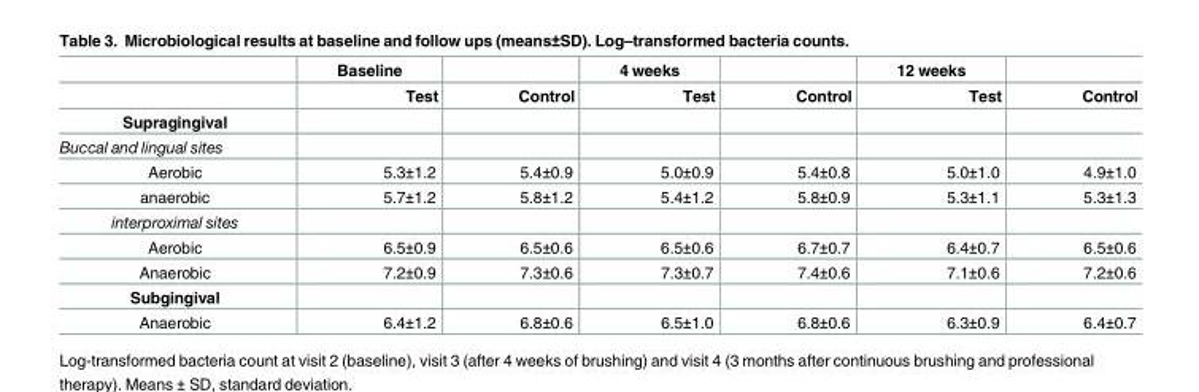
<table><thead><tr><td rowspan="2"></td><td rowspan="2">Baseline Test</td><td rowspan="2">Control</td><td rowspan="2">4 weeks Test</td><td rowspan="2">Control</td><td rowspan="2">12 weeks Test</td><td rowspan="2">Control</td></tr><tr></tr></thead><tbody><tr><td colspan="7">Supragingival</td></tr><tr><td colspan="7">Buccal and lingual sites</td></tr><tr><td>Aerobic</td><td>5.3±1.2</td><td>5.4±0.9</td><td>5.0±0.9</td><td>5.4±0.8</td><td>5.0±1.0</td><td>4.9±1.0</td></tr><tr><td>anaerobic</td><td>5.7±1.2</td><td>5.8±1.2</td><td>5.4±1.2</td><td>5.8±0.9</td><td>5.3±1.1</td><td>5.3±1.3</td></tr><tr><td colspan="7">interproximal sites</td></tr><tr><td>Aerobic</td><td>6.5±0.9</td><td>6.5±0.6</td><td>6.5±0.6</td><td>6.7±0.7</td><td>6.4±0.7</td><td>6.5±0.6</td></tr><tr><td>Anaerobic</td><td>7.2±0.9</td><td>7.3±0.6</td><td>7.3±0.7</td><td>7.4±0.6</td><td>7.1±0.6</td><td>7.2±0.6</td></tr><tr><td colspan="7">Subgingival</td></tr><tr><td>Anaerobic</td><td>6.4±1.2</td><td>6.8±0.6</td><td>6.5±1.0</td><td>6.8±0.6</td><td>6.3±0.9</td><td>6.4±0.7</td></tr></tbody></table>